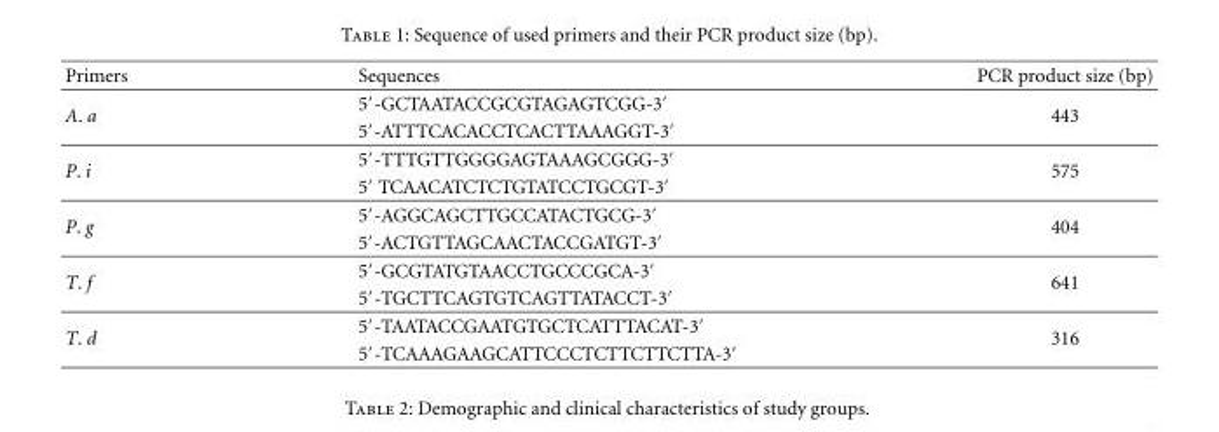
<table><thead><tr><td>Primers</td><td>Sequences</td><td>PCR product size (bp)</td></tr></thead><tbody><tr><td rowspan="2">A. a</td><td>5′-GCTAATACCGCGTAGAGTCGG-3′</td><td rowspan="2">443</td></tr><tr><td>5′-ATTTCACACCTCACTTAAAGGT-3′</td></tr><tr><td rowspan="2">P. i</td><td>5′-TTTGTTGGGGAGTAAAGCGGG-3′</td><td rowspan="2">575</td></tr><tr><td>5′ TCAACATCTCTGTATCCTGCGT-3′</td></tr><tr><td rowspan="2">P. g</td><td>5′-AGGCAGCTTGCCATACTGCG-3′</td><td rowspan="2">404</td></tr><tr><td>5′-ACTGTTAGCAACTACCGATGT-3′</td></tr><tr><td rowspan="2">T. f</td><td>5′-GCGTATGTAACCTGCCCGCA-3′</td><td rowspan="2">641</td></tr><tr><td>5′-TGCTTCAGTGTCAGTTATACCT-3′</td></tr><tr><td rowspan="2">T. d</td><td>5′-TAATACCGAATGTGCTCATTTACAT-3′</td><td rowspan="2">316</td></tr><tr><td>5′-TCAAAGAAGCATTCCCTCTTCTTCTTA-3′</td></tr></tbody></table>